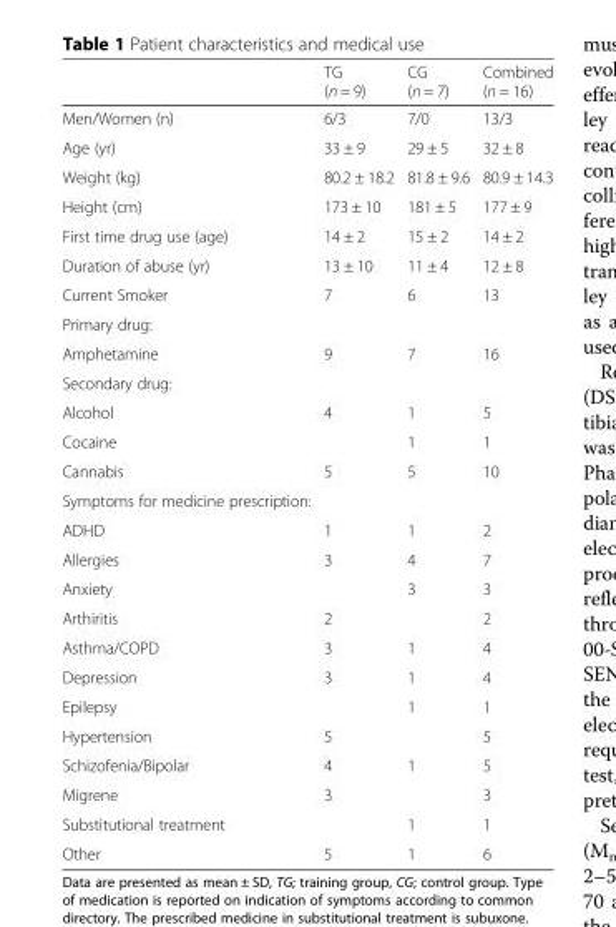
<table><thead><tr><td></td><td>TG (n = 9)</td><td>CG (n = 7)</td><td>Combined (n = 16)</td></tr></thead><tbody><tr><td>Men/Women (n)</td><td>6/3</td><td>7/0</td><td>13/3</td></tr><tr><td>Age (yr)</td><td>33 ± 9</td><td>29 ± 5</td><td>32 ± 8</td></tr><tr><td>Weight (kg)</td><td>80.2 ± 18.2</td><td>81.8 ± 9.6</td><td>80.9 ± 14.3</td></tr><tr><td>Height (cm)</td><td>173 ± 10</td><td>181 ± 5</td><td>177 ± 9</td></tr><tr><td>First time drug use (age)</td><td>14 ± 2</td><td>15 ± 2</td><td>14 ± 2</td></tr><tr><td>Duration of abuse (yr)</td><td>13 ± 10</td><td>11 ± 4</td><td>12 ± 8</td></tr><tr><td>Current Smoker</td><td>7</td><td>6</td><td>13</td></tr><tr><td colspan="4">Primary drug:</td></tr><tr><td>Amphetamine</td><td>9</td><td>7</td><td>16</td></tr><tr><td colspan="4">Secondary drug:</td></tr><tr><td>Alcohol</td><td>4</td><td>1</td><td>5</td></tr><tr><td>Cocaine</td><td></td><td>1</td><td>1</td></tr><tr><td>Cannabis</td><td>5</td><td>5</td><td>10</td></tr><tr><td colspan="4">Symptoms for medicine prescription:</td></tr><tr><td>ADHD</td><td>1</td><td>1</td><td>2</td></tr><tr><td>Allergies</td><td>3</td><td>4</td><td>7</td></tr><tr><td>Anxiety</td><td></td><td>3</td><td>3</td></tr><tr><td>Arthiritis</td><td>2</td><td></td><td>2</td></tr><tr><td>Asthma/COPD</td><td>3</td><td>1</td><td>4</td></tr><tr><td>Depression</td><td>3</td><td>1</td><td>4</td></tr><tr><td>Epilepsy</td><td></td><td>1</td><td>1</td></tr><tr><td>Hypertension</td><td>5</td><td></td><td>5</td></tr><tr><td>Schizofenia/Bipolar</td><td>4</td><td>1</td><td>5</td></tr><tr><td>Migrene</td><td>3</td><td></td><td>3</td></tr><tr><td>Substitutional treatment</td><td></td><td>1</td><td>1</td></tr><tr><td>Other</td><td>5</td><td>1</td><td>6</td></tr></tbody></table>